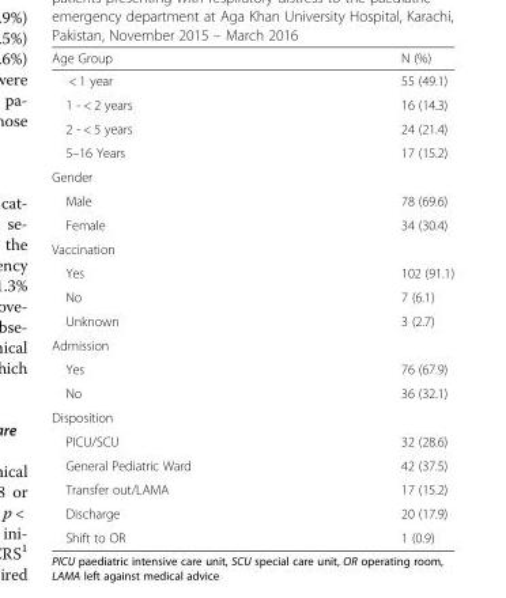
<table><thead><tr><td>Age Group</td><td>N (%)</td></tr></thead><tbody><tr><td>&lt; 1 year</td><td>55 (49.1)</td></tr><tr><td>1 - &lt; 2 years</td><td>16 (14.3)</td></tr><tr><td>2 - &lt; 5 years</td><td>24 (21.4)</td></tr><tr><td>5–16 Years</td><td>17 (15.2)</td></tr><tr><td colspan="2">Gender</td></tr><tr><td>Male</td><td>78 (69.6)</td></tr><tr><td>Female</td><td>34 (30.4)</td></tr><tr><td colspan="2">Vaccination</td></tr><tr><td>Yes</td><td>102 (91.1)</td></tr><tr><td>No</td><td>7 (6.1)</td></tr><tr><td>Unknown</td><td>3 (2.7)</td></tr><tr><td colspan="2">Admission</td></tr><tr><td>Yes</td><td>76 (67.9)</td></tr><tr><td>No</td><td>36 (32.1)</td></tr><tr><td colspan="2">Disposition</td></tr><tr><td>PICU/SCU</td><td>32 (28.6)</td></tr><tr><td>General Pediatric Ward</td><td>42 (37.5)</td></tr><tr><td>Transfer out/LAMA</td><td>17 (15.2)</td></tr><tr><td>Discharge</td><td>20 (17.9)</td></tr><tr><td>Shift to OR</td><td>1 (0.9)</td></tr></tbody></table>